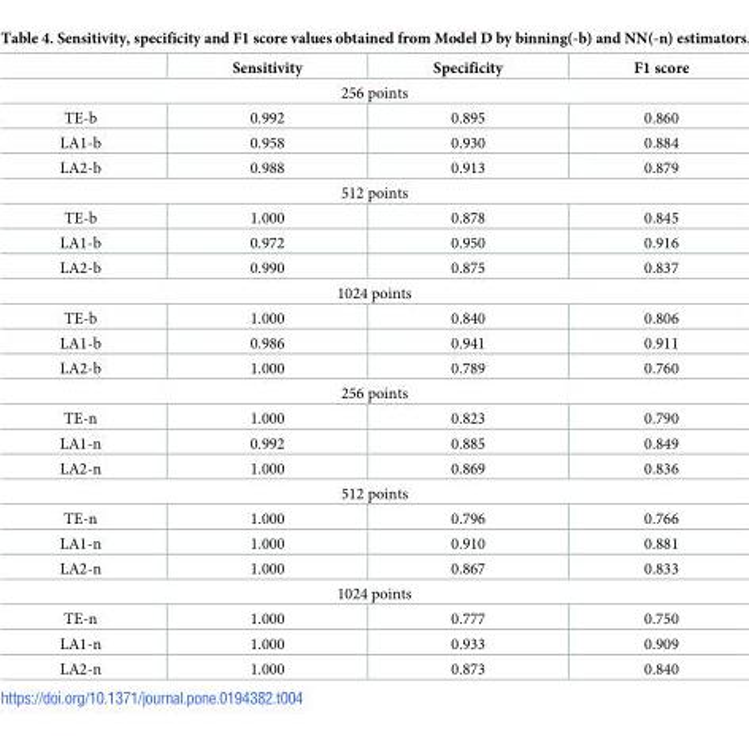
<table><thead><tr><td></td><td>Sensitivity</td><td>Specificity</td><td>F1 score</td></tr></thead><tbody><tr><td colspan="4">256 points</td></tr><tr><td>TE-b</td><td>0.992</td><td>0.895</td><td>0.860</td></tr><tr><td>LA1-b</td><td>0.958</td><td>0.930</td><td>0.884</td></tr><tr><td>LA2-b</td><td>0.988</td><td>0.913</td><td>0.879</td></tr><tr><td colspan="4">512 points</td></tr><tr><td>TE-b</td><td>1.000</td><td>0.878</td><td>0.845</td></tr><tr><td>LA1-b</td><td>0.972</td><td>0.950</td><td>0.916</td></tr><tr><td>LA2-b</td><td>0.990</td><td>0.875</td><td>0.837</td></tr><tr><td colspan="4">1024 points</td></tr><tr><td>TE-b</td><td>1.000</td><td>0.840</td><td>0.806</td></tr><tr><td>LA1-b</td><td>0.986</td><td>0.941</td><td>0.911</td></tr><tr><td>LA2-b</td><td>1.000</td><td>0.789</td><td>0.760</td></tr><tr><td colspan="4">256 points</td></tr><tr><td>TE-n</td><td>1.000</td><td>0.823</td><td>0.790</td></tr><tr><td>LA1-n</td><td>0.992</td><td>0.885</td><td>0.849</td></tr><tr><td>LA2-n</td><td>1.000</td><td>0.869</td><td>0.836</td></tr><tr><td colspan="4">512 points</td></tr><tr><td>TE-n</td><td>1.000</td><td>0.796</td><td>0.766</td></tr><tr><td>LA1-n</td><td>1.000</td><td>0.910</td><td>0.881</td></tr><tr><td>LA2-n</td><td>1.000</td><td>0.867</td><td>0.833</td></tr><tr><td colspan="4">1024 points</td></tr><tr><td>TE-n</td><td>1.000</td><td>0.777</td><td>0.750</td></tr><tr><td>LA1-n</td><td>1.000</td><td>0.933</td><td>0.909</td></tr><tr><td>LA2-n</td><td>1.000</td><td>0.873</td><td>0.840</td></tr></tbody></table>